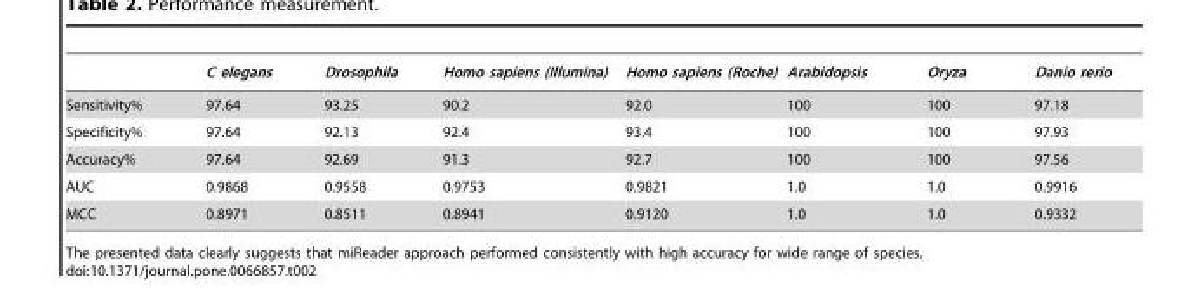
<table><thead><tr><td></td><td>C elegans</td><td>Drosophila</td><td>Homo sapiens (Illumina)</td><td>Homo sapiens (Roche)</td><td>Arabidopsis</td><td>Oryza</td><td>Danio rerio</td></tr></thead><tbody><tr><td>Sensitivity%</td><td>97.64</td><td>93.25</td><td>90.2</td><td>92.0</td><td>100</td><td>100</td><td>97.18</td></tr><tr><td>Specificity%</td><td>97.64</td><td>92.13</td><td>92.4</td><td>93.4</td><td>100</td><td>100</td><td>97.93</td></tr><tr><td>Accuracy%</td><td>97.64</td><td>92.69</td><td>91.3</td><td>92.7</td><td>100</td><td>100</td><td>97.56</td></tr><tr><td>AUC</td><td>0.9868</td><td>0.9558</td><td>0.9753</td><td>0.9821</td><td>1.0</td><td>1.0</td><td>0.9916</td></tr><tr><td>MCC</td><td>0.8971</td><td>0.8511</td><td>0.8941</td><td>0.9120</td><td>1.0</td><td>1.0</td><td>0.9332</td></tr></tbody></table>